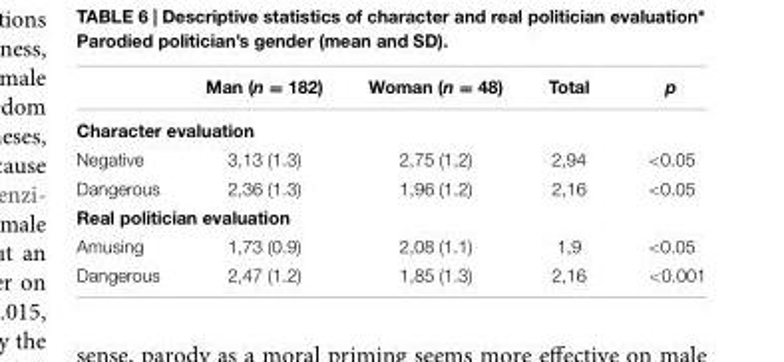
<table><thead><tr><td></td><td>Man (n = 182)</td><td>Woman (n = 48)</td><td>Total</td><td>p</td></tr></thead><tbody><tr><td colspan="5">Character evaluation</td></tr><tr><td>Negative</td><td>3,13 (1.3)</td><td>2,75 (1,2)</td><td>2,94</td><td>&lt;0.05</td></tr><tr><td>Dangerous</td><td>2,36 (1.3)</td><td>1,96 (1.2)</td><td>2,16</td><td>&lt;0.05</td></tr><tr><td colspan="5">Real politician evaluation</td></tr><tr><td>Amusing</td><td>1,73 (0.9)</td><td>2,08 (1.1)</td><td>1,9</td><td>&lt;0.05</td></tr><tr><td>Dangerous</td><td>2,47 (1.2)</td><td>1,85 (1.3)</td><td>2,16</td><td>&lt;0.001</td></tr></tbody></table>